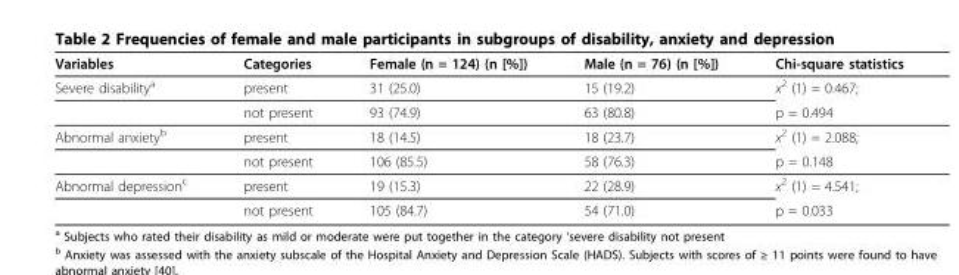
<table><thead><tr><td>Variables</td><td>Categories</td><td>Female (n = 124) (n [%])</td><td>Male (n = 76) (n [%])</td><td>Chi-square statistics</td></tr></thead><tbody><tr><td rowspan="2">Severe disability<sup>a</sup></td><td>present</td><td>31 (25.0)</td><td>15 (19.2)</td><td>x<sup>2</sup> (1) = 0.467;</td></tr><tr><td>not present</td><td>93 (74.9)</td><td>63 (80.8)</td><td>p = 0.494</td></tr><tr><td rowspan="2">Abnormal anxiety<sup>b</sup></td><td>present</td><td>18 (14.5)</td><td>18 (23.7)</td><td>x<sup>2</sup> (1) = 2.088;</td></tr><tr><td>not present</td><td>106 (85.5)</td><td>58 (76.3)</td><td>p = 0.148</td></tr><tr><td rowspan="2">Abnormal depression<sup>c</sup></td><td>present</td><td>19 (15.3)</td><td>22 (28.9)</td><td>x<sup>2</sup> (1) = 4.541;</td></tr><tr><td>not present</td><td>105 (84.7)</td><td>54 (71.0)</td><td>p = 0.033</td></tr></tbody></table>